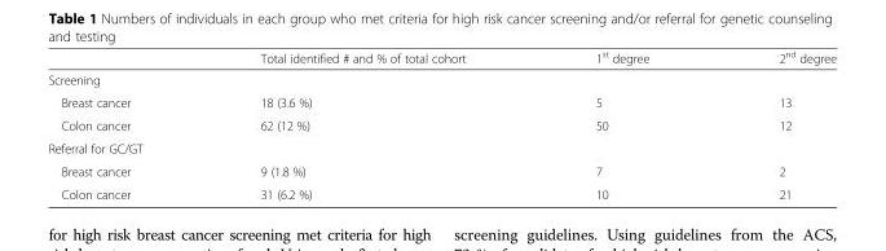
<table><thead><tr><td></td><td>Total identified # and % of total cohort</td><td>1<sup>st</sup> degree</td><td>2<sup>nd</sup> degree</td></tr></thead><tbody><tr><td colspan="4">Screening</td></tr><tr><td>Breast cancer</td><td>18 (3.6 %)</td><td>5</td><td>13</td></tr><tr><td>Colon cancer</td><td>62 (12 %)</td><td>50</td><td>12</td></tr><tr><td colspan="4">Referral for GC/GT</td></tr><tr><td>Breast cancer</td><td>9 (1.8 %)</td><td>7</td><td>2</td></tr><tr><td>Colon cancer</td><td>31 (6.2 %)</td><td>10</td><td>21</td></tr></tbody></table>